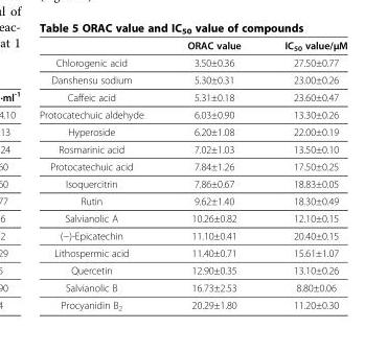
<table><thead><tr><td></td><td>ORAC value</td><td>IC<sub>50</sub> value/μM</td></tr></thead><tbody><tr><td>Chlorogenic acid</td><td>3.50±0.36</td><td>27.50±0.77</td></tr><tr><td>Danshensu sodium</td><td>5.30±0.31</td><td>23.00±0.26</td></tr><tr><td>Caffeic acid</td><td>5.31±0.18</td><td>23.60±0.47</td></tr><tr><td>Protocatechuic aldehyde</td><td>6.03±0.90</td><td>13.30±0.26</td></tr><tr><td>Hyperoside</td><td>6.20±1.08</td><td>22.00±0.19</td></tr><tr><td>Rosmarinic acid</td><td>7.02±1.03</td><td>13.50±0.10</td></tr><tr><td>Protocatechuic acid</td><td>7.84±1.26</td><td>17.50±0.25</td></tr><tr><td>Isoquercitrin</td><td>7.86±0.67</td><td>18.83±0.05</td></tr><tr><td>Rutin</td><td>9.62±1.40</td><td>18.30±0.49</td></tr><tr><td>Salvianolic A</td><td>10.26±0.82</td><td>12.10±0.15</td></tr><tr><td>(−)-Epicatechin</td><td>11.10±0.41</td><td>20.40±0.15</td></tr><tr><td>Lithospermic acid</td><td>11.40±0.71</td><td>15.61±1.07</td></tr><tr><td>Quercetin</td><td>12.90±0.35</td><td>13.10±0.26</td></tr><tr><td>Salvianolic B</td><td>16.73±2.53</td><td>8.80±0.06</td></tr><tr><td>Procyanidin B<sub>2</sub></td><td>20.29±1.80</td><td>11.20±0.30</td></tr></tbody></table>